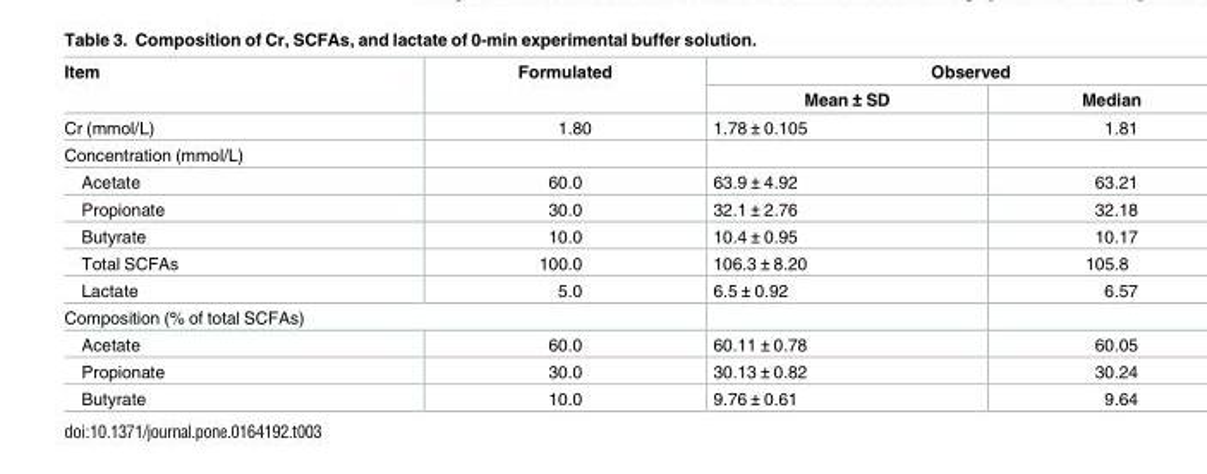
<table><thead><tr><td rowspan="2">Item</td><td rowspan="2">Formulated</td><td colspan="2">Observed</td></tr><tr><td>Mean ± SD</td><td>Median</td></tr></thead><tbody><tr><td>Cr (mmol/L)</td><td>1.80</td><td>1.78 ± 0.105</td><td>1.81</td></tr><tr><td colspan="4">Concentration (mmol/L)</td></tr><tr><td>Acetate</td><td>60.0</td><td>63.9 ± 4.92</td><td>63.21</td></tr><tr><td>Propionate</td><td>30.0</td><td>32.1 ± 2.76</td><td>32.18</td></tr><tr><td>Butyrate</td><td>10.0</td><td>10.4 ± 0.95</td><td>10.17</td></tr><tr><td>Total SCFAs</td><td>100.0</td><td>106.3 ± 8.20</td><td>105.8</td></tr><tr><td>Lactate</td><td>5.0</td><td>6.5 ± 0.92</td><td>6.57</td></tr><tr><td colspan="4">Composition (% of total SCFAs)</td></tr><tr><td>Acetate</td><td>60.0</td><td>60.11 ± 0.78</td><td>60.05</td></tr><tr><td>Propionate</td><td>30.0</td><td>30.13 ± 0.82</td><td>30.24</td></tr><tr><td>Butyrate</td><td>10.0</td><td>9.76 ± 0.61</td><td>9.64</td></tr></tbody></table>